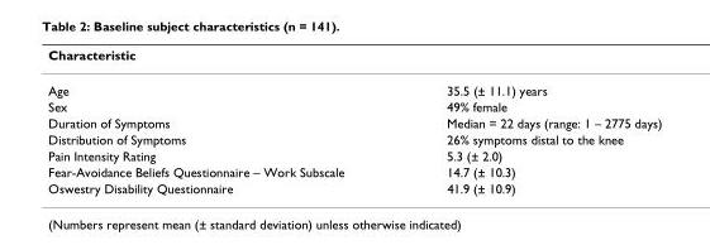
<table><thead><tr><td>Characteristic</td><td></td></tr></thead><tbody><tr><td>Age</td><td>35.5 (± 11.1) years</td></tr><tr><td>Sex</td><td>49% female</td></tr><tr><td>Duration of Symptoms</td><td>Median = 22 days (range: 1 – 2775 days)</td></tr><tr><td>Distribution of Symptoms</td><td>26% symptoms distal to the knee</td></tr><tr><td>Pain Intensity Rating</td><td>5.3 (± 2.0)</td></tr><tr><td>Fear-Avoidance Beliefs Questionnaire – Work Subscale</td><td>14.7 (± 10.3)</td></tr><tr><td>Oswestry Disability Questionnaire</td><td>41.9 (± 10.9)</td></tr></tbody></table>